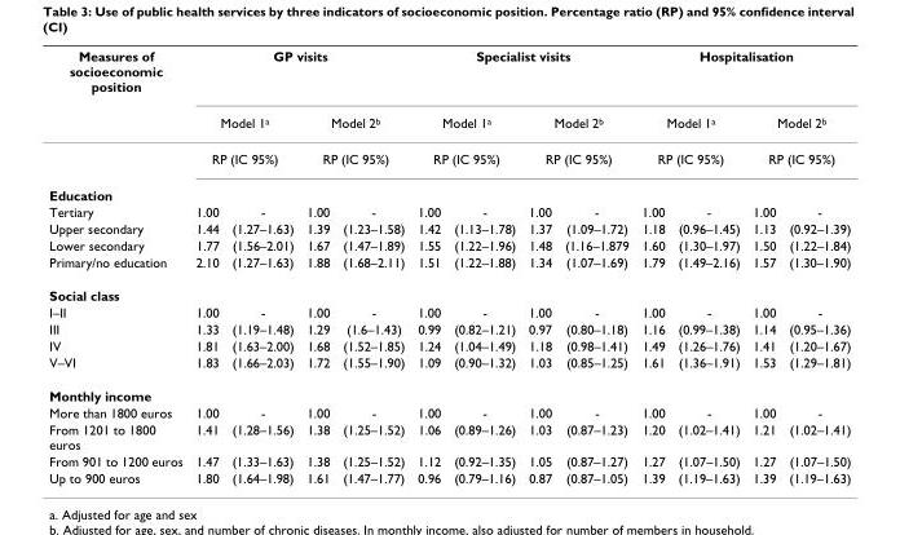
<table><thead><tr><td rowspan="4">Measures of socioeconomic position Education</td><td colspan="4">GP visits</td><td colspan="4">Specialist visits</td><td colspan="4">Hospitalisation</td></tr><tr><td rowspan="2" colspan="2">Model 1<sup>a</sup> RP (IC 95%)</td><td rowspan="2" colspan="2">Model 2<sup>b</sup> RP (IC 95%)</td><td rowspan="2" colspan="2">Model 1<sup>a</sup> RP (IC 95%)</td><td rowspan="2" colspan="2">Model 2<sup>b</sup> RP (IC 95%)</td><td rowspan="2" colspan="2">Model 1<sup>a</sup> RP (IC 95%)</td><td rowspan="2" colspan="2">Model 2<sup>b</sup> RP (IC 95%)</td></tr><tr></tr><tr><td></td><td></td><td></td><td></td><td></td><td></td><td></td><td></td><td></td><td></td><td></td><td></td></tr></thead><tbody><tr><td>Tertiary</td><td>1.00</td><td>-</td><td>1.00</td><td>-</td><td>1.00</td><td>-</td><td>1.00</td><td>-</td><td>1.00</td><td>-</td><td>1.00</td><td>-</td></tr><tr><td>Upper secondary</td><td>1.44</td><td>(1.27–1.63)</td><td>1.39</td><td>(1.23–1.58)</td><td>1.42</td><td>(1.13–1.78)</td><td>1.37</td><td>(1.09–1.72)</td><td>1.18</td><td>(0.96–1.45)</td><td>1.13</td><td>(0.92–1.39)</td></tr><tr><td>Lower secondary</td><td>1.77</td><td>(1.56–2.01)</td><td>1.67</td><td>(1.47–1.89)</td><td>1.55</td><td>(1.22–1.96)</td><td>1.48</td><td>(1.16–1.879</td><td>1.60</td><td>(1.30–1.97)</td><td>1.50</td><td>(1.22–1.84)</td></tr><tr><td>Primary/no education</td><td>2.10</td><td>(1.27–1.63)</td><td>1.88</td><td>(1.68–2.11)</td><td>1.51</td><td>(1.22–1.88)</td><td>1.34</td><td>(1.07–1.69)</td><td>1.79</td><td>(1.49–2.16)</td><td>1.57</td><td>(1.30–1.90)</td></tr><tr><td colspan="13">Social class</td></tr><tr><td>I–II</td><td>1.00</td><td>-</td><td>1.00</td><td>-</td><td>1.00</td><td>-</td><td>1.00</td><td>-</td><td>1.00</td><td>-</td><td>1.00</td><td>-</td></tr><tr><td>III</td><td>1.33</td><td>(1.19–1.48)</td><td>1.29</td><td>(1.6–1.43)</td><td>0.99</td><td>(0.82–1.21)</td><td>0.97</td><td>(0.80–1.18)</td><td>1.16</td><td>(0.99–1.38)</td><td>1.14</td><td>(0.95–1.36)</td></tr><tr><td>IV</td><td>1.81</td><td>(1.63–2.00)</td><td>1.68</td><td>(1.52–1.85)</td><td>1.24</td><td>(1.04–1.49)</td><td>1.18</td><td>(0.98–1.41)</td><td>1.49</td><td>(1.26–1.76)</td><td>1.41</td><td>(1.20–1.67)</td></tr><tr><td>V–VI</td><td>1.83</td><td>(1.66–2.03)</td><td>1.72</td><td>(1.55–1.90)</td><td>1.09</td><td>(0.90–1.32)</td><td>1.03</td><td>(0.85–1.25)</td><td>1.61</td><td>(1.36–1.91)</td><td>1.53</td><td>(1.29–1.81)</td></tr><tr><td colspan="13">Monthly income</td></tr><tr><td>More than 1800 euros</td><td>1.00</td><td>-</td><td>1.00</td><td>-</td><td>1.00</td><td>-</td><td>1.00</td><td>-</td><td>1.00</td><td>-</td><td>1.00</td><td>-</td></tr><tr><td>From 1201 to 1800 euros</td><td>1.41</td><td>(1.28–1.56)</td><td>1.38</td><td>(1.25–1.52)</td><td>1.06</td><td>(0.89–1.26)</td><td>1.03</td><td>(0.87–1.23)</td><td>1.20</td><td>(1.02–1.41)</td><td>1.21</td><td>(1.02–1.41)</td></tr><tr><td>From 901 to 1200 euros</td><td>1.47</td><td>(1.33–1.63)</td><td>1.38</td><td>(1.25–1.52)</td><td>1.12</td><td>(0.92–1.35)</td><td>1.05</td><td>(0.87–1.27)</td><td>1.27</td><td>(1.07–1.50)</td><td>1.27</td><td>(1.07–1.50)</td></tr><tr><td>Up to 900 euros</td><td>1.80</td><td>(1.64–1.98)</td><td>1.61</td><td>(1.47–1.77)</td><td>0.96</td><td>(0.79–1.16)</td><td>0.87</td><td>(0.87–1.05)</td><td>1.39</td><td>(1.19–1.63)</td><td>1.39</td><td>(1.19–1.63)</td></tr></tbody></table>